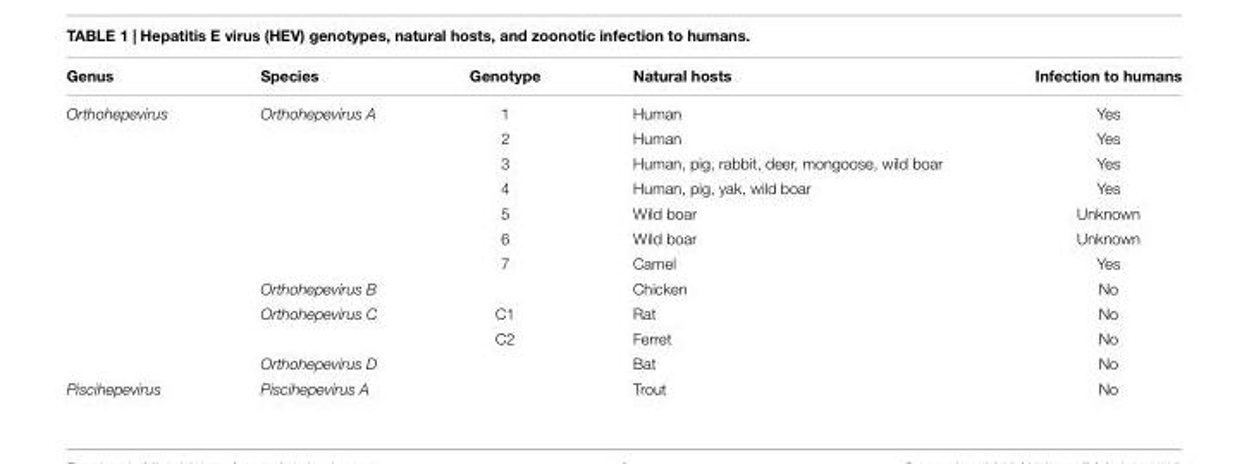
<table><thead><tr><td>Genus</td><td>Species</td><td>Genotype</td><td>Natural hosts</td><td>Infection to humans</td></tr></thead><tbody><tr><td rowspan="11">Orthohepevirus</td><td>Orthohepevirus A</td><td>1</td><td>Human</td><td>Yes</td></tr><tr><td></td><td>2</td><td>Human</td><td>Yes</td></tr><tr><td></td><td>3</td><td>Human, pig, rabbit, deer, mongoose, wild boar</td><td>Yes</td></tr><tr><td></td><td>4</td><td>Human, pig, yak, wild boar</td><td>Yes</td></tr><tr><td></td><td>5</td><td>Wild boar</td><td>Unknown</td></tr><tr><td></td><td>6</td><td>Wild boar</td><td>Unknown</td></tr><tr><td></td><td>7</td><td>Camel</td><td>Yes</td></tr><tr><td>Orthohepevirus B</td><td></td><td>Chicken</td><td>No</td></tr><tr><td>Orthohepevirus C</td><td>C1</td><td>Rat</td><td>No</td></tr><tr><td></td><td>C2</td><td>Ferret</td><td>No</td></tr><tr><td>Orthohepevirus D</td><td></td><td>Bat</td><td>No</td></tr><tr><td>Piscihepevirus</td><td>Piscihepevirus A</td><td></td><td>Trout</td><td>No</td></tr></tbody></table>